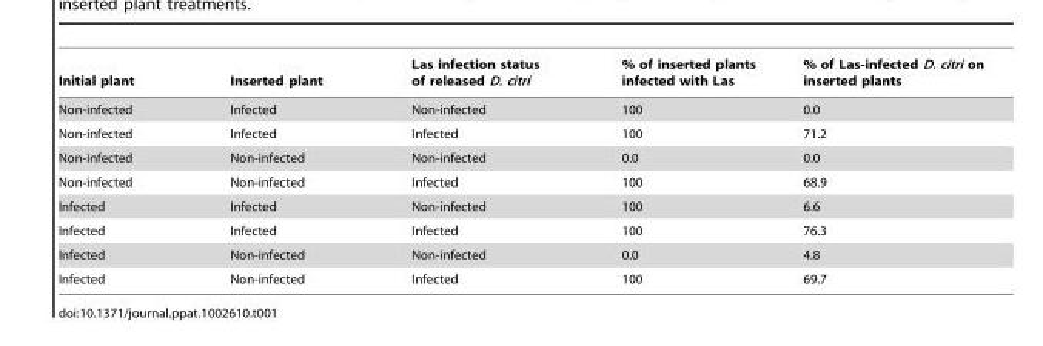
<table><thead><tr><td>Initial plant</td><td>Inserted plant</td><td>Las infection status of released D. citri</td><td>% of inserted plants infected with Las</td><td>% of Las-infected D. citri on inserted plants</td></tr></thead><tbody><tr><td>Non-infected</td><td>Infected</td><td>Non-infected</td><td>100</td><td>0.0</td></tr><tr><td>Non-infected</td><td>Infected</td><td>Infected</td><td>100</td><td>71.2</td></tr><tr><td>Non-infected</td><td>Non-infected</td><td>Non-infected</td><td>0.0</td><td>0.0</td></tr><tr><td>Non-infected</td><td>Non-infected</td><td>Infected</td><td>100</td><td>68.9</td></tr><tr><td>Infected</td><td>Infected</td><td>Non-infected</td><td>100</td><td>6.6</td></tr><tr><td>Infected</td><td>Infected</td><td>Infected</td><td>100</td><td>76.3</td></tr><tr><td>Infected</td><td>Non-infected</td><td>Non-infected</td><td>0.0</td><td>4.8</td></tr><tr><td>Infected</td><td>Non-infected</td><td>Infected</td><td>100</td><td>69.7</td></tr></tbody></table>